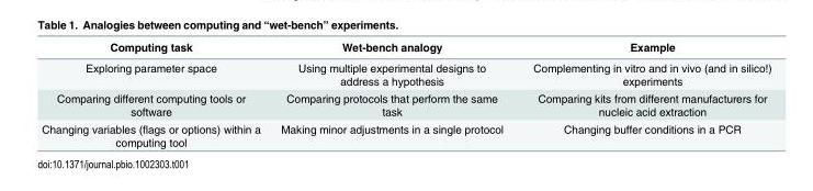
<table><thead><tr><td>Computing task</td><td>Wet-bench analogy</td><td>Example</td></tr></thead><tbody><tr><td>Exploring parameter space</td><td>Using multiple experimental designs to address a hypothesis</td><td>Complementing in vitro and in vivo (and in silico!) experiments</td></tr><tr><td>Comparing different computing tools or software</td><td>Comparing protocols that perform the same task</td><td>Comparing kits from different manufacturers for nucleic acid extraction</td></tr><tr><td>Changing variables (flags or options) within a computing tool</td><td>Making minor adjustments in a single protocol</td><td>Changing buffer conditions in a PCR</td></tr></tbody></table>